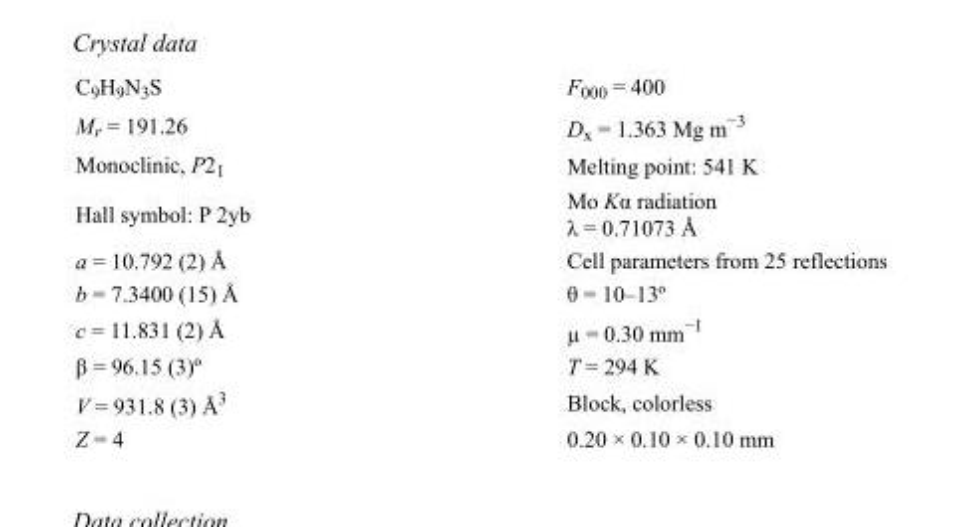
<table><tbody><tr><td>C<sub>9</sub>H<sub>9</sub>N<sub>3</sub>S</td><td>F000 = 400</td></tr><tr><td>M<sub>r</sub> = 191.26</td><td>D<sub>x</sub> = 1.363 Mg m<sup>−3</sup></td></tr><tr><td>Monoclinic, P2<sub>1</sub></td><td>Melting point: 541 K</td></tr><tr><td>Hall symbol: P 2yb</td><td>Mo Kα radiation λ = 0.71073 Å</td></tr><tr><td>a = 10.792 (2) Å</td><td>Cell parameters from 25 reflections</td></tr><tr><td>b = 7.3400 (15) Å</td><td>θ = 10–13º</td></tr><tr><td>c = 11.831 (2) Å</td><td>µ = 0.30 mm<sup>−1</sup></td></tr><tr><td>β = 96.15 (3)º</td><td>T = 294 K</td></tr><tr><td>V = 931.8 (3) Å<sup>3</sup></td><td>Block, colorless</td></tr><tr><td>Z = 4</td><td>0.20 × 0.10 × 0.10 mm</td></tr></tbody></table>